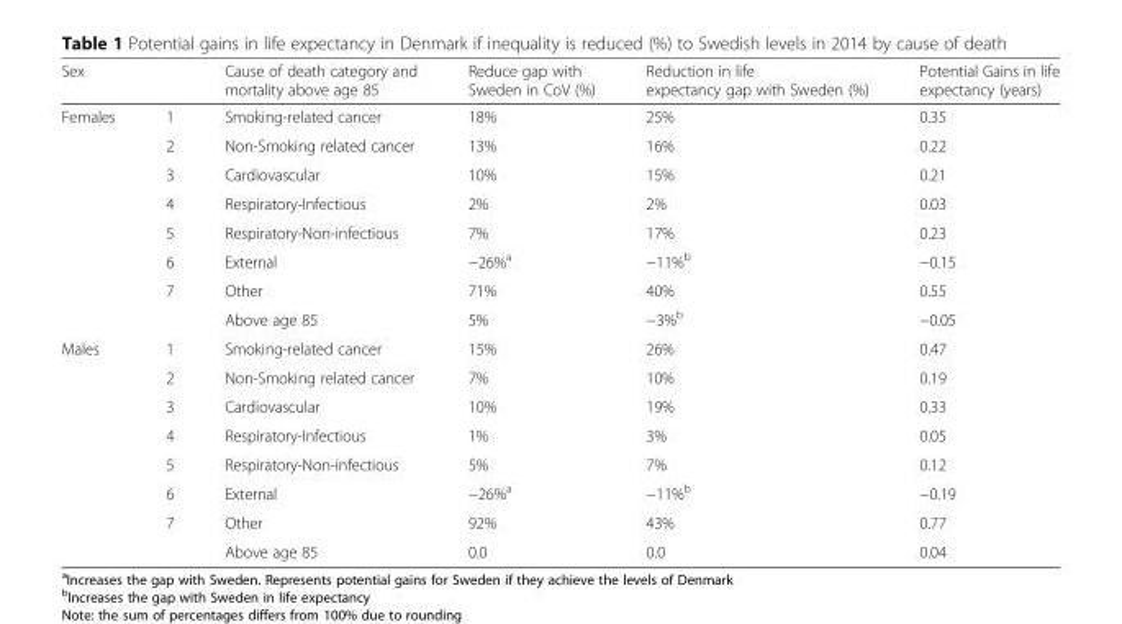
<table><thead><tr><td>Sex</td><td></td><td>Cause of death category and mortality above age 85</td><td>Reduce gap with Sweden in CoV (%)</td><td>Reduction in life expectancy gap with Sweden (%)</td><td>Potential Gains in life expectancy (years)</td></tr></thead><tbody><tr><td rowspan="8">Females</td><td>1</td><td>Smoking-related cancer</td><td>18%</td><td>25%</td><td>0.35</td></tr><tr><td>2</td><td>Non-Smoking related cancer</td><td>13%</td><td>16%</td><td>0.22</td></tr><tr><td>3</td><td>Cardiovascular</td><td>10%</td><td>15%</td><td>0.21</td></tr><tr><td>4</td><td>Respiratory-Infectious</td><td>2%</td><td>2%</td><td>0.03</td></tr><tr><td>5</td><td>Respiratory-Non-infectious</td><td>7%</td><td>17%</td><td>0.23</td></tr><tr><td>6</td><td>External</td><td>−26%<sup>a</sup></td><td>−11%<sup>b</sup></td><td>−0.15</td></tr><tr><td>7</td><td>Other</td><td>71%</td><td>40%</td><td>0.55</td></tr><tr><td></td><td>Above age 85</td><td>5%</td><td>−3%<sup>b</sup></td><td>−0.05</td></tr><tr><td rowspan="8">Males</td><td>1</td><td>Smoking-related cancer</td><td>15%</td><td>26%</td><td>0.47</td></tr><tr><td>2</td><td>Non-Smoking related cancer</td><td>7%</td><td>10%</td><td>0.19</td></tr><tr><td>3</td><td>Cardiovascular</td><td>10%</td><td>19%</td><td>0.33</td></tr><tr><td>4</td><td>Respiratory-Infectious</td><td>1%</td><td>3%</td><td>0.05</td></tr><tr><td>5</td><td>Respiratory-Non-infectious</td><td>5%</td><td>7%</td><td>0.12</td></tr><tr><td>6</td><td>External</td><td>−26%<sup>a</sup></td><td>−11%<sup>b</sup></td><td>−0.19</td></tr><tr><td>7</td><td>Other</td><td>92%</td><td>43%</td><td>0.77</td></tr><tr><td></td><td>Above age 85</td><td>0.0</td><td>0.0</td><td>0.04</td></tr></tbody></table>